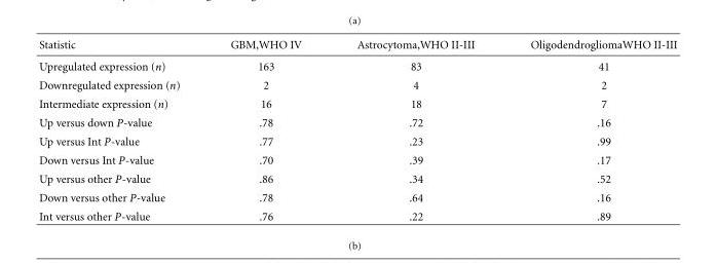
<table><thead><tr><td>Statistic</td><td>GBM,WHO IV</td><td>Astrocytoma,WHO II-III</td><td>OligodendrogliomaWHO II-III</td></tr></thead><tbody><tr><td>Upregulated expression (n)</td><td>163</td><td>83</td><td>41</td></tr><tr><td>Downregulated expression (n)</td><td>2</td><td>4</td><td>2</td></tr><tr><td>Intermediate expression (n)</td><td>16</td><td>18</td><td>7</td></tr><tr><td>Up versus down P-value</td><td>.78</td><td>.72</td><td>.16</td></tr><tr><td>Up versus Int P-value</td><td>.77</td><td>.23</td><td>.99</td></tr><tr><td>Down versus Int P-value</td><td>.70</td><td>.39</td><td>.17</td></tr><tr><td>Up versus other P-value</td><td>.86</td><td>.34</td><td>.52</td></tr><tr><td>Down versus other P-value</td><td>.78</td><td>.64</td><td>.16</td></tr><tr><td>Int versus other P-value</td><td>.76</td><td>.22</td><td>.89</td></tr></tbody></table>